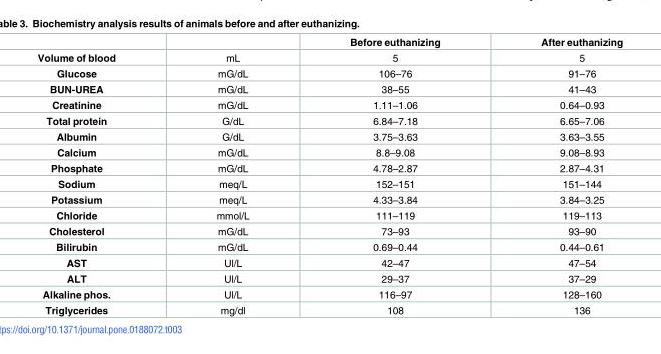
<table><thead><tr><td></td><td></td><td>Before euthanizing</td><td>After euthanizing</td></tr></thead><tbody><tr><td>Volume of blood</td><td>mL</td><td>5</td><td>5</td></tr><tr><td>Glucose</td><td>mG/dL</td><td>106–76</td><td>91–76</td></tr><tr><td>BUN-UREA</td><td>mG/dL</td><td>38–55</td><td>41–43</td></tr><tr><td>Creatinine</td><td>mG/dL</td><td>1.11–1.06</td><td>0.64–0.93</td></tr><tr><td>Total protein</td><td>G/dL</td><td>6.84–7.18</td><td>6.65–7.06</td></tr><tr><td>Albumin</td><td>G/dL</td><td>3.75–3.63</td><td>3.63–3.55</td></tr><tr><td>Calcium</td><td>mG/dL</td><td>8.8–9.08</td><td>9.08–8.93</td></tr><tr><td>Phosphate</td><td>mG/dL</td><td>4.78–2.87</td><td>2.87–4.31</td></tr><tr><td>Sodium</td><td>meq/L</td><td>152–151</td><td>151–144</td></tr><tr><td>Potassium</td><td>meq/L</td><td>4.33–3.84</td><td>3.84–3.25</td></tr><tr><td>Chloride</td><td>mmol/L</td><td>111–119</td><td>119–113</td></tr><tr><td>Cholesterol</td><td>mG/dL</td><td>73–93</td><td>93–90</td></tr><tr><td>Bilirubin</td><td>mG/dL</td><td>0.69–0.44</td><td>0.44–0.61</td></tr><tr><td>AST</td><td>Ul/L</td><td>42–47</td><td>47–54</td></tr><tr><td>ALT</td><td>Ul/L</td><td>29–37</td><td>37–29</td></tr><tr><td>Alkaline phos.</td><td>Ul/L</td><td>116–97</td><td>128–160</td></tr><tr><td>Triglycerides</td><td>mg/dl</td><td>108</td><td>136</td></tr></tbody></table>